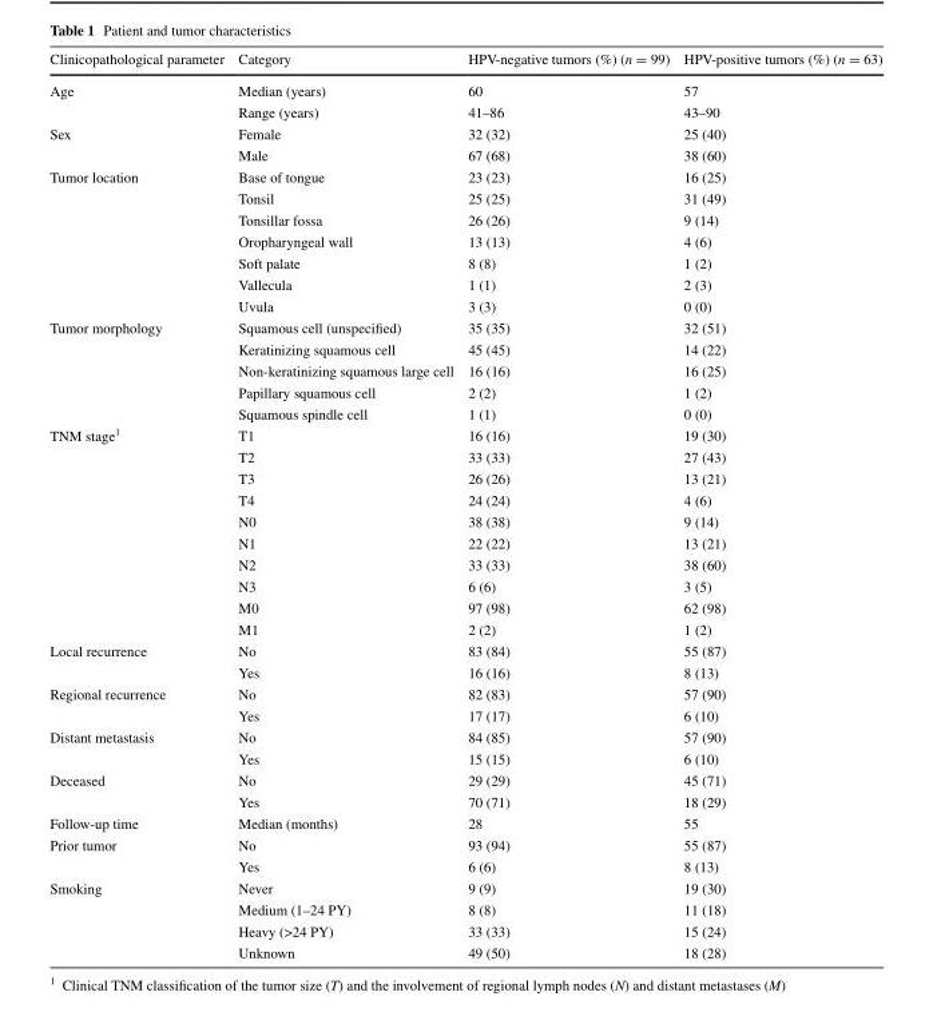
<table><thead><tr><td>Clinicopathological parameter</td><td>Category</td><td>HPV-negative tumors (%) (n = 99)</td><td>HPV-positive tumors (%) (n = 63)</td></tr></thead><tbody><tr><td rowspan="2">Age</td><td>Median (years)</td><td>60</td><td>57</td></tr><tr><td>Range (years)</td><td>41–86</td><td>43–90</td></tr><tr><td rowspan="2">Sex</td><td>Female</td><td>32 (32)</td><td>25 (40)</td></tr><tr><td>Male</td><td>67 (68)</td><td>38 (60)</td></tr><tr><td rowspan="7">Tumor location</td><td>Base of tongue</td><td>23 (23)</td><td>16 (25)</td></tr><tr><td>Tonsil</td><td>25 (25)</td><td>31 (49)</td></tr><tr><td>Tonsillar fossa</td><td>26 (26)</td><td>9 (14)</td></tr><tr><td>Oropharyngeal wall</td><td>13 (13)</td><td>4 (6)</td></tr><tr><td>Soft palate</td><td>8 (8)</td><td>1 (2)</td></tr><tr><td>Vallecula</td><td>1 (1)</td><td>2 (3)</td></tr><tr><td>Uvula</td><td>3 (3)</td><td>0 (0)</td></tr><tr><td rowspan="5">Tumor morphology</td><td>Squamous cell (unspecified)</td><td>35 (35)</td><td>32 (51)</td></tr><tr><td>Keratinizing squamous cell</td><td>45 (45)</td><td>14 (22)</td></tr><tr><td>Non-keratinizing squamous large cell</td><td>16 (16)</td><td>16 (25)</td></tr><tr><td>Papillary squamous cell</td><td>2 (2)</td><td>1 (2)</td></tr><tr><td>Squamous spindle cell</td><td>1 (1)</td><td>0 (0)</td></tr><tr><td rowspan="10">TNM stage<sup>1</sup></td><td>T1</td><td>16 (16)</td><td>19 (30)</td></tr><tr><td>T2</td><td>33 (33)</td><td>27 (43)</td></tr><tr><td>T3</td><td>26 (26)</td><td>13 (21)</td></tr><tr><td>T4</td><td>24 (24)</td><td>4 (6)</td></tr><tr><td>N0</td><td>38 (38)</td><td>9 (14)</td></tr><tr><td>N1</td><td>22 (22)</td><td>13 (21)</td></tr><tr><td>N2</td><td>33 (33)</td><td>38 (60)</td></tr><tr><td>N3</td><td>6 (6)</td><td>3 (5)</td></tr><tr><td>M0</td><td>97 (98)</td><td>62 (98)</td></tr><tr><td>M1</td><td>2 (2)</td><td>1 (2)</td></tr><tr><td rowspan="2">Local recurrence</td><td>No</td><td>83 (84)</td><td>55 (87)</td></tr><tr><td>Yes</td><td>16 (16)</td><td>8 (13)</td></tr><tr><td rowspan="2">Regional recurrence</td><td>No</td><td>82 (83)</td><td>57 (90)</td></tr><tr><td>Yes</td><td>17 (17)</td><td>6 (10)</td></tr><tr><td rowspan="2">Distant metastasis</td><td>No</td><td>84 (85)</td><td>57 (90)</td></tr><tr><td>Yes</td><td>15 (15)</td><td>6 (10)</td></tr><tr><td rowspan="2">Deceased</td><td>No</td><td>29 (29)</td><td>45 (71)</td></tr><tr><td>Yes</td><td>70 (71)</td><td>18 (29)</td></tr><tr><td>Follow-up time</td><td>Median (months)</td><td>28</td><td>55</td></tr><tr><td rowspan="2">Prior tumor</td><td>No</td><td>93 (94)</td><td>55 (87)</td></tr><tr><td>Yes</td><td>6 (6)</td><td>8 (13)</td></tr><tr><td rowspan="4">Smoking</td><td>Never</td><td>9 (9)</td><td>19 (30)</td></tr><tr><td>Medium (1–24 PY)</td><td>8 (8)</td><td>11 (18)</td></tr><tr><td>Heavy (&gt;24 PY)</td><td>33 (33)</td><td>15 (24)</td></tr><tr><td>Unknown</td><td>49 (50)</td><td>18 (28)</td></tr></tbody></table>